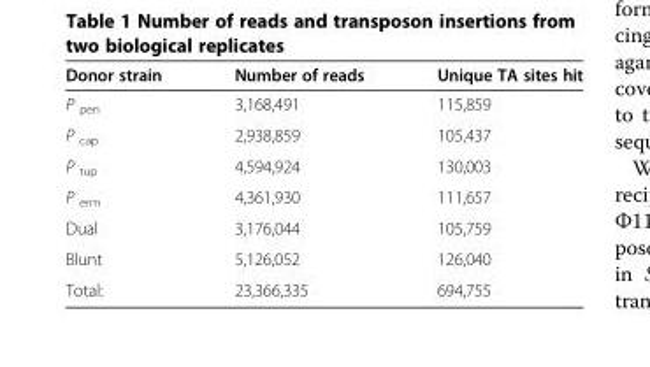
<table><thead><tr><td>Donor strain</td><td>Number of reads</td><td>Unique TA sites hit</td></tr></thead><tbody><tr><td>P <sub>pen</sub></td><td>3,168,491</td><td>115,859</td></tr><tr><td>P <sub>cap</sub></td><td>2,938,859</td><td>105,437</td></tr><tr><td>P <sub>tup</sub></td><td>4,594,924</td><td>130,003</td></tr><tr><td>P <sub>erm</sub></td><td>4,361,930</td><td>111,657</td></tr><tr><td>Dual</td><td>3,176,044</td><td>105,759</td></tr><tr><td>Blunt</td><td>5,126,052</td><td>126,040</td></tr><tr><td>Total:</td><td>23,366,335</td><td>694,755</td></tr></tbody></table>